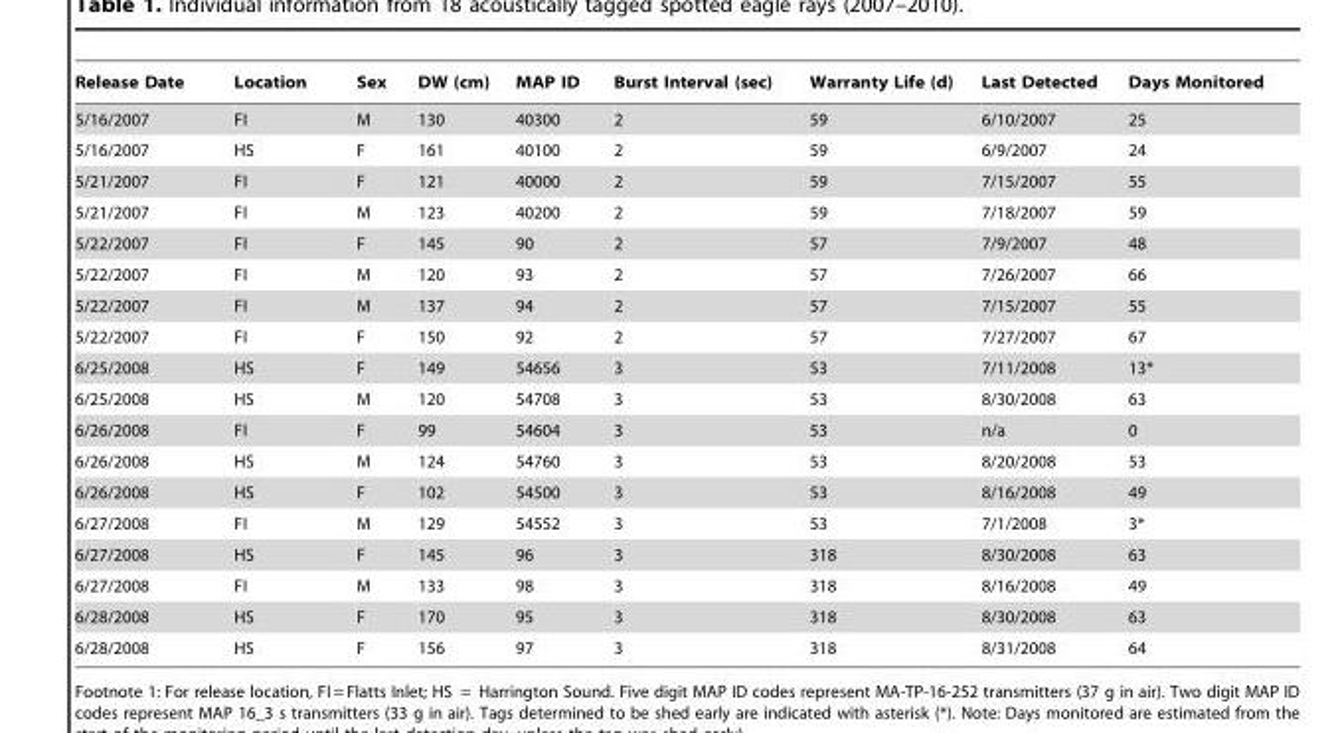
<table><thead><tr><td>Release Date</td><td>Location</td><td>Sex</td><td>DW (cm)</td><td>MAP ID</td><td>Burst Interval (sec)</td><td>Warranty Life (d)</td><td>Last Detected</td><td>Days Monitored</td></tr></thead><tbody><tr><td>5/16/2007</td><td>FI</td><td>M</td><td>130</td><td>40300</td><td>2</td><td>59</td><td>6/10/2007</td><td>25</td></tr><tr><td>5/16/2007</td><td>HS</td><td>F</td><td>161</td><td>40100</td><td>2</td><td>59</td><td>6/9/2007</td><td>24</td></tr><tr><td>5/21/2007</td><td>FI</td><td>F</td><td>121</td><td>40000</td><td>2</td><td>59</td><td>7/15/2007</td><td>55</td></tr><tr><td>5/21/2007</td><td>FI</td><td>M</td><td>123</td><td>40200</td><td>2</td><td>59</td><td>7/18/2007</td><td>59</td></tr><tr><td>5/22/2007</td><td>FI</td><td>F</td><td>145</td><td>90</td><td>2</td><td>57</td><td>7/9/2007</td><td>48</td></tr><tr><td>5/22/2007</td><td>FI</td><td>M</td><td>120</td><td>93</td><td>2</td><td>57</td><td>7/26/2007</td><td>66</td></tr><tr><td>5/22/2007</td><td>FI</td><td>M</td><td>137</td><td>94</td><td>2</td><td>57</td><td>7/15/2007</td><td>55</td></tr><tr><td>5/22/2007</td><td>FI</td><td>F</td><td>150</td><td>92</td><td>2</td><td>57</td><td>7/27/2007</td><td>67</td></tr><tr><td>6/25/2008</td><td>HS</td><td>F</td><td>149</td><td>54656</td><td>3</td><td>53</td><td>7/11/2008</td><td>13*</td></tr><tr><td>6/25/2008</td><td>HS</td><td>M</td><td>120</td><td>54708</td><td>3</td><td>53</td><td>8/30/2008</td><td>63</td></tr><tr><td>6/26/2008</td><td>FI</td><td>F</td><td>99</td><td>54604</td><td>3</td><td>53</td><td>n/a</td><td>0</td></tr><tr><td>6/26/2008</td><td>HS</td><td>M</td><td>124</td><td>54760</td><td>3</td><td>53</td><td>8/20/2008</td><td>53</td></tr><tr><td>6/26/2008</td><td>HS</td><td>F</td><td>102</td><td>54500</td><td>3</td><td>53</td><td>8/16/2008</td><td>49</td></tr><tr><td>6/27/2008</td><td>FI</td><td>M</td><td>129</td><td>54552</td><td>3</td><td>53</td><td>7/1/2008</td><td>3*</td></tr><tr><td>6/27/2008</td><td>HS</td><td>F</td><td>145</td><td>96</td><td>3</td><td>318</td><td>8/30/2008</td><td>63</td></tr><tr><td>6/27/2008</td><td>FI</td><td>M</td><td>133</td><td>98</td><td>3</td><td>318</td><td>8/16/2008</td><td>49</td></tr><tr><td>6/28/2008</td><td>HS</td><td>F</td><td>170</td><td>95</td><td>3</td><td>318</td><td>8/30/2008</td><td>63</td></tr><tr><td>6/28/2008</td><td>HS</td><td>F</td><td>156</td><td>97</td><td>3</td><td>318</td><td>8/31/2008</td><td>64</td></tr></tbody></table>